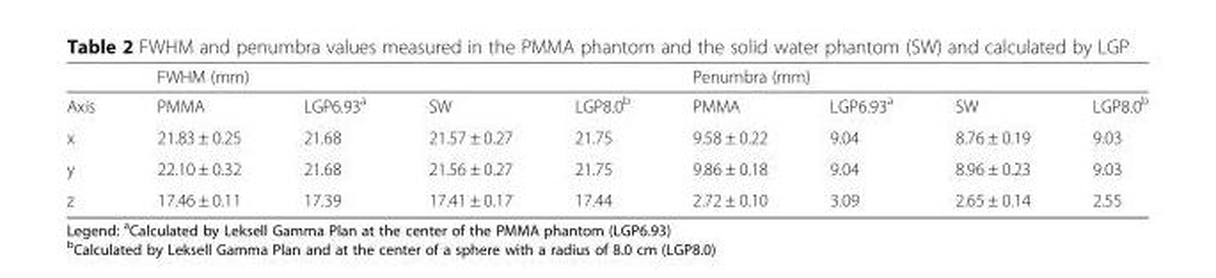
<table><thead><tr><td rowspan="2">Axis</td><td colspan="4">FWHM (mm)</td><td colspan="4">Penumbra (mm)</td></tr><tr><td>PMMA</td><td>LGP6.93<sup>a</sup></td><td>SW</td><td>LGP8.0<sup>b</sup></td><td>PMMA</td><td>LGP6.93<sup>a</sup></td><td>SW</td><td>LGP8.0<sup>b</sup></td></tr></thead><tbody><tr><td>x</td><td>21.83 ± 0.25</td><td>21.68</td><td>21.57 ± 0.27</td><td>21.75</td><td>9.58 ± 0.22</td><td>9.04</td><td>8.76 ± 0.19</td><td>9.03</td></tr><tr><td>y</td><td>22.10 ± 0.32</td><td>21.68</td><td>21.56 ± 0.27</td><td>21.75</td><td>9.86 ± 0.18</td><td>9.04</td><td>8.96 ± 0.23</td><td>9.03</td></tr><tr><td>z</td><td>17.46 ± 0.11</td><td>17.39</td><td>17.41 ± 0.17</td><td>17.44</td><td>2.72 ± 0.10</td><td>3.09</td><td>2.65 ± 0.14</td><td>2.55</td></tr></tbody></table>